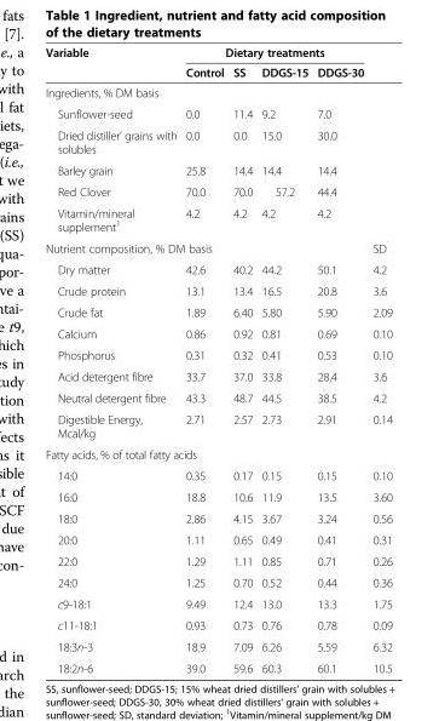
<table><thead><tr><td rowspan="2">Variable</td><td colspan="4">Dietary treatments</td><td rowspan="2"></td></tr><tr><td>Control</td><td>SS</td><td>DDGS-15</td><td>DDGS-30</td></tr></thead><tbody><tr><td colspan="6">Ingredients, % DM basis</td></tr><tr><td>Sunflower-seed</td><td>0.0</td><td>11.4</td><td>9.2</td><td>7.0</td><td></td></tr><tr><td>Dried distiller’ grains with solubles</td><td>0.0</td><td>0.0</td><td>15.0</td><td>30.0</td><td></td></tr><tr><td>Barley grain</td><td>25.8</td><td>14.4</td><td>14.4</td><td>14.4</td><td></td></tr><tr><td>Red Clover</td><td>70.0</td><td>70.0</td><td>57.2</td><td>44.4</td><td></td></tr><tr><td>Vitamin/mineral supplement<sup>1</sup></td><td>4.2</td><td>4.2</td><td>4.2</td><td>4.2</td><td></td></tr><tr><td colspan="5">Nutrient composition, % DM basis</td><td>SD</td></tr><tr><td>Dry matter</td><td>42.6</td><td>40.2</td><td>44.2</td><td>50.1</td><td>4.2</td></tr><tr><td>Crude protein</td><td>13.1</td><td>13.4</td><td>16.5</td><td>20.8</td><td>3.6</td></tr><tr><td>Crude fat</td><td>1.89</td><td>6.40</td><td>5.80</td><td>5.90</td><td>2.09</td></tr><tr><td>Calcium</td><td>0.86</td><td>0.92</td><td>0.81</td><td>0.69</td><td>0.10</td></tr><tr><td>Phosphorus</td><td>0.31</td><td>0.32</td><td>0.41</td><td>0.53</td><td>0.10</td></tr><tr><td>Acid detergent fibre</td><td>33.7</td><td>37.0</td><td>33.8</td><td>28.4</td><td>3.6</td></tr><tr><td>Neutral detergent fibre</td><td>43.3</td><td>48.7</td><td>44.5</td><td>38.5</td><td>4.2</td></tr><tr><td>Digestible Energy, Mcal/kg</td><td>2.71</td><td>2.57</td><td>2.73</td><td>2.91</td><td>0.14</td></tr><tr><td colspan="6">Fatty acids, % of total fatty acids</td></tr><tr><td>14:0</td><td>0.35</td><td>0.17</td><td>0.15</td><td>0.15</td><td>0.10</td></tr><tr><td>16:0</td><td>18.8</td><td>10.6</td><td>11.9</td><td>13.5</td><td>3.60</td></tr><tr><td>18:0</td><td>2.86</td><td>4.15</td><td>3.67</td><td>3.24</td><td>0.56</td></tr><tr><td>20:0</td><td>1.11</td><td>0.65</td><td>0.49</td><td>0.41</td><td>0.31</td></tr><tr><td>22:0</td><td>1.29</td><td>1.11</td><td>0.85</td><td>0.71</td><td>0.26</td></tr><tr><td>24:0</td><td>1.25</td><td>0.70</td><td>0.52</td><td>0.44</td><td>0.36</td></tr><tr><td>c9-18:1</td><td>9.49</td><td>12.4</td><td>13.0</td><td>13.3</td><td>1.75</td></tr><tr><td>c11-18:1</td><td>0.93</td><td>0.73</td><td>0.76</td><td>0.78</td><td>0.09</td></tr><tr><td>18:3n-3</td><td>18.9</td><td>7.09</td><td>6.26</td><td>5.59</td><td>6.32</td></tr><tr><td>18:2n-6</td><td>39.0</td><td>59.6</td><td>60.3</td><td>60.1</td><td>10.5</td></tr></tbody></table>